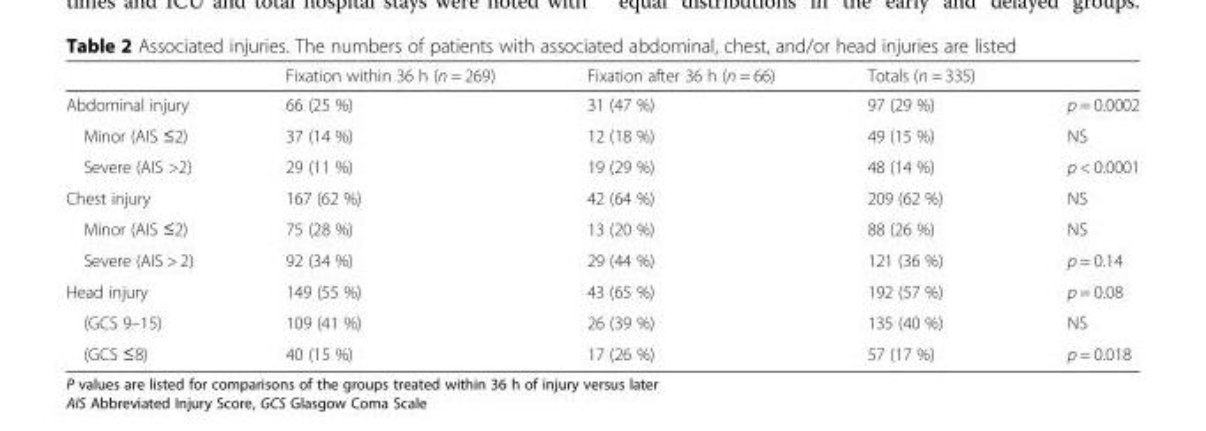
<table><thead><tr><td></td><td>Fixation within 36 h (n = 269)</td><td>Fixation after 36 h (n = 66)</td><td>Totals (n = 335)</td><td></td></tr></thead><tbody><tr><td>Abdominal injury</td><td>66 (25 %)</td><td>31 (47 %)</td><td>97 (29 %)</td><td>p = 0.0002</td></tr><tr><td>Minor (AIS ≤2)</td><td>37 (14 %)</td><td>12 (18 %)</td><td>49 (15 %)</td><td>NS</td></tr><tr><td>Severe (AIS &gt;2)</td><td>29 (11 %)</td><td>19 (29 %)</td><td>48 (14 %)</td><td>p &lt; 0.0001</td></tr><tr><td>Chest injury</td><td>167 (62 %)</td><td>42 (64 %)</td><td>209 (62 %)</td><td>NS</td></tr><tr><td>Minor (AIS ≤2)</td><td>75 (28 %)</td><td>13 (20 %)</td><td>88 (26 %)</td><td>NS</td></tr><tr><td>Severe (AIS &gt; 2)</td><td>92 (34 %)</td><td>29 (44 %)</td><td>121 (36 %)</td><td>p = 0.14</td></tr><tr><td>Head injury</td><td>149 (55 %)</td><td>43 (65 %)</td><td>192 (57 %)</td><td>p = 0.08</td></tr><tr><td>(GCS 9–15)</td><td>109 (41 %)</td><td>26 (39 %)</td><td>135 (40 %)</td><td>NS</td></tr><tr><td>(GCS ≤8)</td><td>40 (15 %)</td><td>17 (26 %)</td><td>57 (17 %)</td><td>p = 0.018</td></tr></tbody></table>